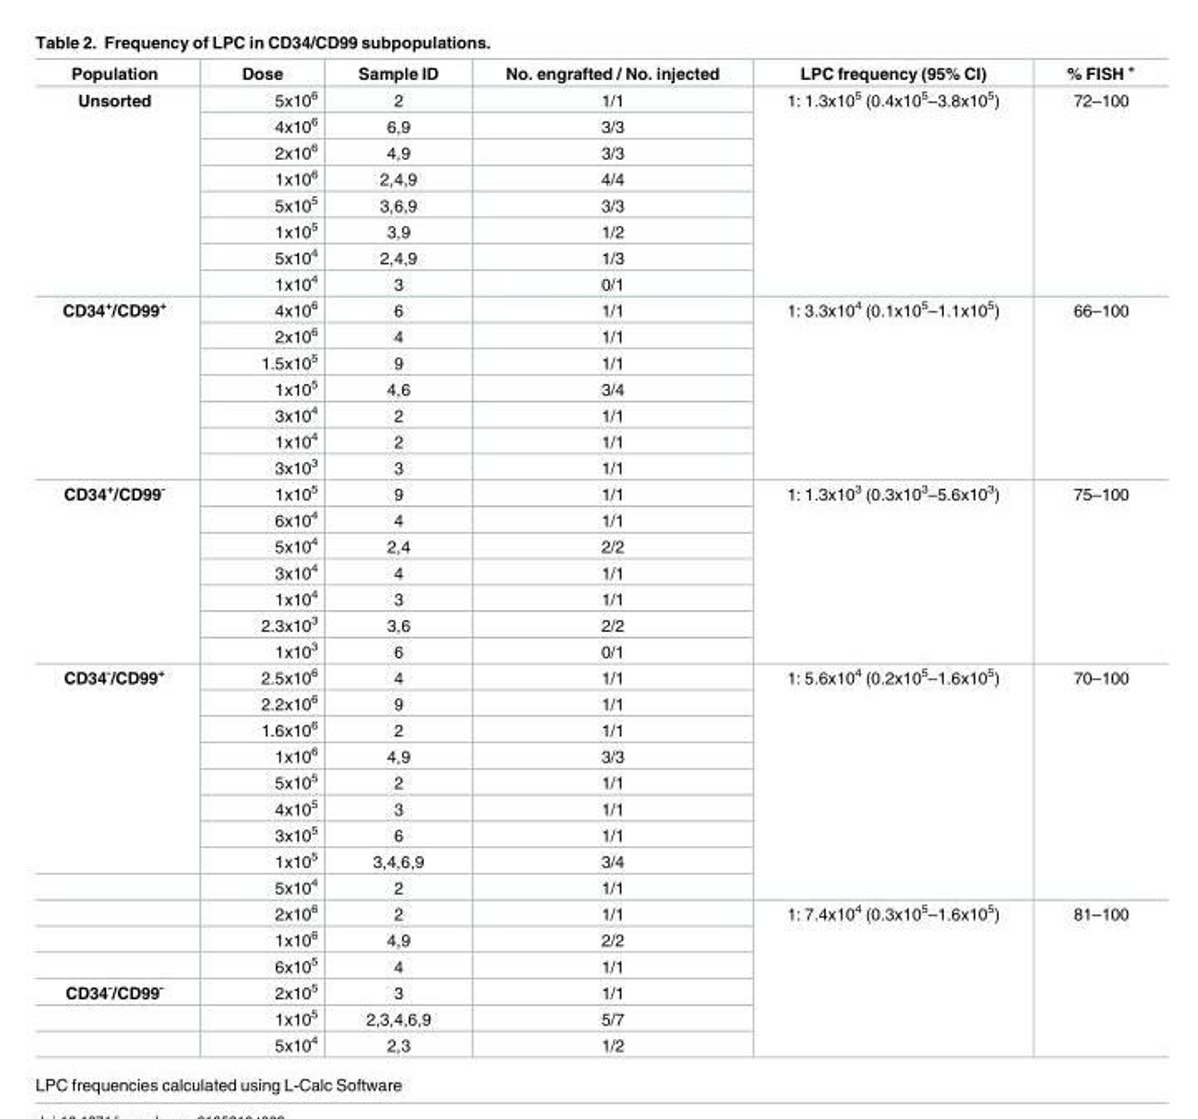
<table><thead><tr><td>Population</td><td>Dose</td><td>Sample ID</td><td>No. engrafted / No. injected</td><td>LPC frequency (95% CI)</td><td>% FISH <sup>+</sup></td></tr></thead><tbody><tr><td rowspan="8">Unsorted</td><td>5x10<sup>6</sup></td><td>2</td><td>1/1</td><td rowspan="8">1: 1.3x10<sup>5</sup> (0.4x10<sup>5</sup>–3.8x10<sup>5</sup>)</td><td rowspan="8">72–100</td></tr><tr><td>4x10<sup>6</sup></td><td>6,9</td><td>3/3</td></tr><tr><td>2x10<sup>6</sup></td><td>4,9</td><td>3/3</td></tr><tr><td>1x10<sup>6</sup></td><td>2,4,9</td><td>4/4</td></tr><tr><td>5x10<sup>5</sup></td><td>3,6,9</td><td>3/3</td></tr><tr><td>1x10<sup>5</sup></td><td>3,9</td><td>1/2</td></tr><tr><td>5x10<sup>4</sup></td><td>2,4,9</td><td>1/3</td></tr><tr><td>1x10<sup>4</sup></td><td>3</td><td>0/1</td></tr><tr><td rowspan="7">CD34<sup>+</sup>/CD99<sup>+</sup></td><td>4x10<sup>6</sup></td><td>6</td><td>1/1</td><td rowspan="7">1: 3.3x10<sup>4</sup> (0.1x10<sup>5</sup>–1.1x10<sup>5</sup>)</td><td rowspan="7">66–100</td></tr><tr><td>2x10<sup>6</sup></td><td>4</td><td>1/1</td></tr><tr><td>1.5x10<sup>5</sup></td><td>9</td><td>1/1</td></tr><tr><td>1x10<sup>5</sup></td><td>4,6</td><td>3/4</td></tr><tr><td>3x10<sup>4</sup></td><td>2</td><td>1/1</td></tr><tr><td>1x10<sup>4</sup></td><td>2</td><td>1/1</td></tr><tr><td>3x10<sup>3</sup></td><td>3</td><td>1/1</td></tr><tr><td rowspan="7">CD34<sup>+</sup>/CD99<sup>-</sup></td><td>1x10<sup>5</sup></td><td>9</td><td>1/1</td><td rowspan="7">1: 1.3x10<sup>3</sup> (0.3x10<sup>3</sup>–5.6x10<sup>3</sup>)</td><td rowspan="7">75–100</td></tr><tr><td>6x10<sup>4</sup></td><td>4</td><td>1/1</td></tr><tr><td>5x10<sup>4</sup></td><td>2,4</td><td>2/2</td></tr><tr><td>3x10<sup>4</sup></td><td>4</td><td>1/1</td></tr><tr><td>1x10<sup>4</sup></td><td>3</td><td>1/1</td></tr><tr><td>2.3x10<sup>3</sup></td><td>3,6</td><td>2/2</td></tr><tr><td>1x10<sup>3</sup></td><td>6</td><td>0/1</td></tr><tr><td rowspan="12">CD34<sup>-</sup>/CD99<sup>+</sup></td><td>2.5x10<sup>6</sup></td><td>4</td><td>1/1</td><td rowspan="9">1: 5.6x10<sup>4</sup> (0.2x10<sup>5</sup>–1.6x10<sup>5</sup>)</td><td rowspan="9">70–100</td></tr><tr><td>2.2x10<sup>6</sup></td><td>9</td><td>1/1</td></tr><tr><td>1.6x10<sup>6</sup></td><td>2</td><td>1/1</td></tr><tr><td>1x10<sup>6</sup></td><td>4,9</td><td>3/3</td></tr><tr><td>5x10<sup>5</sup></td><td>2</td><td>1/1</td></tr><tr><td>4x10<sup>5</sup></td><td>3</td><td>1/1</td></tr><tr><td>3x10<sup>5</sup></td><td>6</td><td>1/1</td></tr><tr><td>1x10<sup>5</sup></td><td>3,4,6,9</td><td>3/4</td></tr><tr><td>5x10<sup>4</sup></td><td>2</td><td>1/1</td></tr><tr><td>2x10<sup>6</sup></td><td>2</td><td>1/1</td><td rowspan="6">1: 7.4x10<sup>4</sup> (0.3x10<sup>5</sup>–1.6x10<sup>5</sup>)</td><td rowspan="6">81–100</td></tr><tr><td>1x10<sup>6</sup></td><td>4,9</td><td>2/2</td></tr><tr><td>6x10<sup>5</sup></td><td>4</td><td>1/1</td></tr><tr><td rowspan="3">CD34<sup>-</sup>/CD99<sup>-</sup></td><td>2x10<sup>5</sup></td><td>3</td><td>1/1</td></tr><tr><td>1x10<sup>5</sup></td><td>2,3,4,6,9</td><td>5/7</td></tr><tr><td>5x10<sup>4</sup></td><td>2,3</td><td>1/2</td></tr></tbody></table>